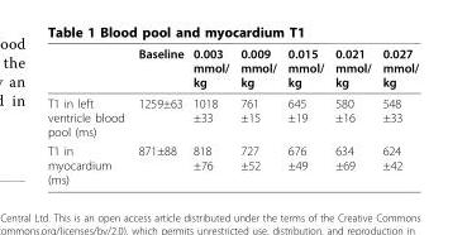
<table><thead><tr><td></td><td>Baseline</td><td>0.003 mmol/ kg</td><td>0.009 mmol/ kg</td><td>0.015 mmol/ kg</td><td>0.021 mmol/ kg</td><td>0.027 mmol/ kg</td></tr></thead><tbody><tr><td>T1 in left ventricle blood pool (ms)</td><td>1259±63</td><td>1018 ±33</td><td>761 ±15</td><td>645 ±19</td><td>580 ±16</td><td>548 ±33</td></tr><tr><td>T1 in myocardium (ms)</td><td>871±88</td><td>818 ±76</td><td>727 ±52</td><td>676 ±49</td><td>634 ±69</td><td>624 ±42</td></tr></tbody></table>